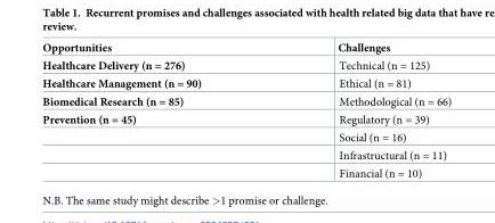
<table><thead><tr><td>Opportunities</td><td>Challenges</td></tr></thead><tbody><tr><td>Healthcare Delivery (n = 276)</td><td>Technical (n = 125)</td></tr><tr><td>Healthcare Management (n = 90)</td><td>Ethical (n = 81)</td></tr><tr><td>Biomedical Research (n = 85)</td><td>Methodological (n = 66)</td></tr><tr><td rowspan="4">Prevention (n = 45)</td><td>Regulatory (n = 39)</td></tr><tr><td>Social (n = 16)</td></tr><tr><td>Infrastructural (n = 11)</td></tr><tr><td>Financial (n = 10)</td></tr></tbody></table>